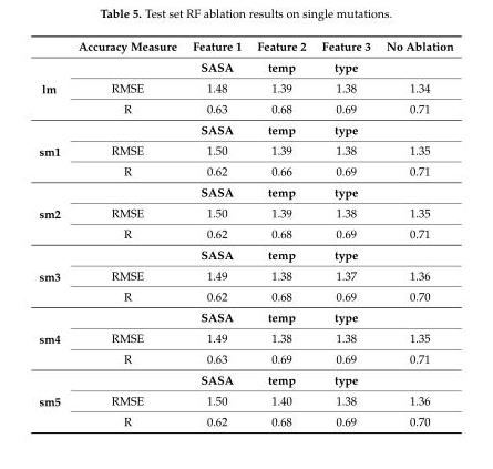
<table><thead><tr><td></td><td>Accuracy Measure</td><td>Feature 1</td><td>Feature 2</td><td>Feature 3</td><td>No Ablation</td></tr></thead><tbody><tr><td rowspan="3">lm</td><td></td><td>SASA</td><td>temp</td><td>type</td><td></td></tr><tr><td>RMSE</td><td>1.48</td><td>1.39</td><td>1.38</td><td>1.34</td></tr><tr><td>R</td><td>0.63</td><td>0.68</td><td>0.69</td><td>0.71</td></tr><tr><td rowspan="3">sm1</td><td></td><td>SASA</td><td>temp</td><td>type</td><td></td></tr><tr><td>RMSE</td><td>1.50</td><td>1.39</td><td>1.38</td><td>1.35</td></tr><tr><td>R</td><td>0.62</td><td>0.66</td><td>0.69</td><td>0.71</td></tr><tr><td rowspan="3">sm2</td><td></td><td>SASA</td><td>temp</td><td>type</td><td></td></tr><tr><td>RMSE</td><td>1.50</td><td>1.39</td><td>1.38</td><td>1.35</td></tr><tr><td>R</td><td>0.62</td><td>0.68</td><td>0.69</td><td>0.71</td></tr><tr><td rowspan="3">sm3</td><td></td><td>SASA</td><td>temp</td><td>type</td><td></td></tr><tr><td>RMSE</td><td>1.49</td><td>1.38</td><td>1.37</td><td>1.36</td></tr><tr><td>R</td><td>0.62</td><td>0.68</td><td>0.69</td><td>0.70</td></tr><tr><td rowspan="3">sm4</td><td></td><td>SASA</td><td>temp</td><td>type</td><td></td></tr><tr><td>RMSE</td><td>1.49</td><td>1.38</td><td>1.38</td><td>1.35</td></tr><tr><td>R</td><td>0.63</td><td>0.69</td><td>0.69</td><td>0.71</td></tr><tr><td rowspan="3">sm5</td><td></td><td>SASA</td><td>temp</td><td>type</td><td></td></tr><tr><td>RMSE</td><td>1.50</td><td>1.40</td><td>1.38</td><td>1.36</td></tr><tr><td>R</td><td>0.62</td><td>0.68</td><td>0.69</td><td>0.70</td></tr></tbody></table>